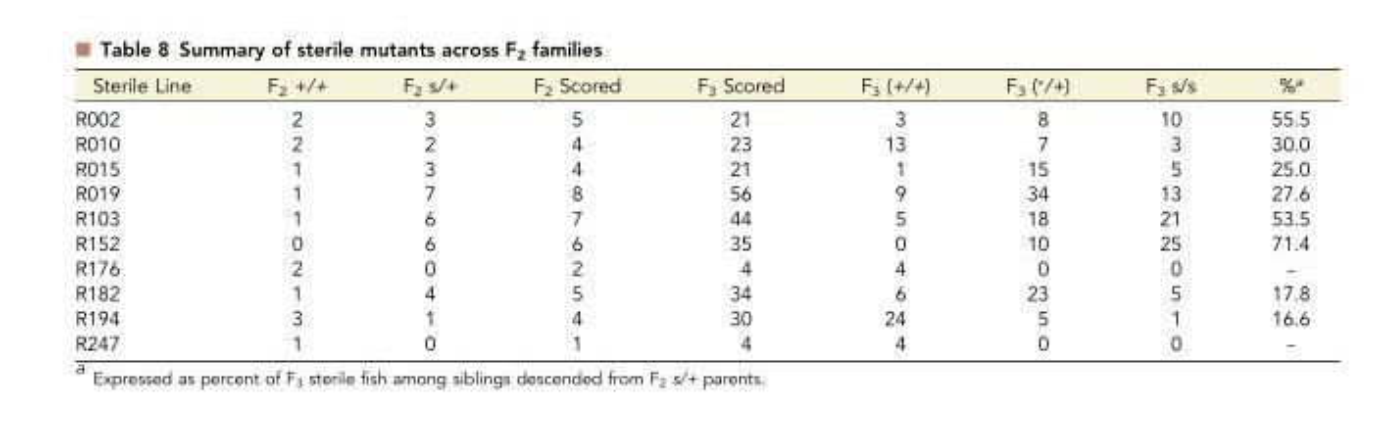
<table><thead><tr><td>Sterile Line</td><td>F<sub>2</sub> +/+</td><td>F<sub>2</sub> s/+</td><td>F<sub>2</sub> Scored</td><td>F<sub>3</sub> Scored</td><td>F<sub>3</sub> (+/+)</td><td>F<sub>3</sub> (*/+)</td><td>F<sub>3</sub> s/s</td><td>%<sup>a</sup></td></tr></thead><tbody><tr><td>R002</td><td>2</td><td>3</td><td>5</td><td>21</td><td>3</td><td>8</td><td>10</td><td>55.5</td></tr><tr><td>R010</td><td>2</td><td>2</td><td>4</td><td>23</td><td>13</td><td>7</td><td>3</td><td>30.0</td></tr><tr><td>R015</td><td>1</td><td>3</td><td>4</td><td>21</td><td>1</td><td>15</td><td>5</td><td>25.0</td></tr><tr><td>R019</td><td>1</td><td>7</td><td>8</td><td>56</td><td>9</td><td>34</td><td>13</td><td>27.6</td></tr><tr><td>R103</td><td>1</td><td>6</td><td>7</td><td>44</td><td>5</td><td>18</td><td>21</td><td>53.5</td></tr><tr><td>R152</td><td>0</td><td>6</td><td>6</td><td>35</td><td>0</td><td>10</td><td>25</td><td>71.4</td></tr><tr><td>R176</td><td>2</td><td>0</td><td>2</td><td>4</td><td>4</td><td>0</td><td>0</td><td>–</td></tr><tr><td>R182</td><td>1</td><td>4</td><td>5</td><td>34</td><td>6</td><td>23</td><td>5</td><td>17.8</td></tr><tr><td>R194</td><td>3</td><td>1</td><td>4</td><td>30</td><td>24</td><td>5</td><td>1</td><td>16.6</td></tr><tr><td>R247</td><td>1</td><td>0</td><td>1</td><td>4</td><td>4</td><td>0</td><td>0</td><td>–</td></tr></tbody></table>